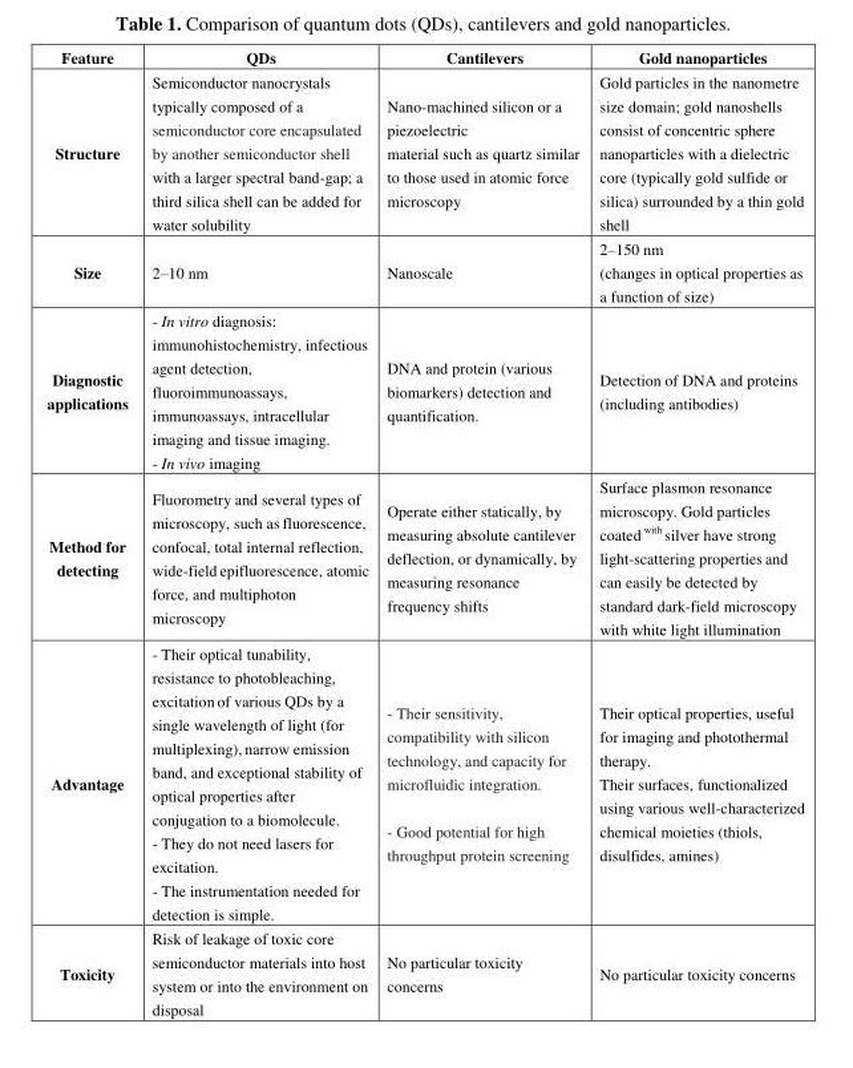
<table><thead><tr><td>Feature</td><td>QDs</td><td>Cantilevers</td><td>Gold nanoparticles</td></tr></thead><tbody><tr><td>Structure</td><td>Semiconductor nanocrystals typically composed of a semiconductor core encapsulated by another semiconductor shell with a larger spectral band-gap; a third silica shell can be added for water solubility</td><td>Nano-machined silicon or a piezoelectric material such as quartz similar to those used in atomic force microscopy</td><td>Gold particles in the nanometre size domain; gold nanoshells consist of concentric sphere nanoparticles with a dielectric core (typically gold sulfide or silica) surrounded by a thin gold shell</td></tr><tr><td>Size</td><td>2–10 nm</td><td>Nanoscale</td><td>2–150 nm (changes in optical properties as a function of size)</td></tr><tr><td>Diagnostic applications</td><td>- In vitro diagnosis: immunohistochemistry, infectious agent detection, fluoroimmunoassays, immunoassays, intracellular imaging and tissue imaging. - In vivo imaging</td><td>DNA and protein (various biomarkers) detection and quantification.</td><td>Detection of DNA and proteins (including antibodies)</td></tr><tr><td>Method for detecting</td><td>Fluorometry and several types of microscopy, such as fluorescence, confocal, total internal reflection, wide-field epifluorescence, atomic force, and multiphoton microscopy</td><td>Operate either statically, by measuring absolute cantilever deflection, or dynamically, by measuring resonance frequency shifts</td><td>Surface plasmon resonance microscopy. Gold particles coated <sup>with</sup> silver have strong light-scattering properties and can easily be detected by standard dark-field microscopy with white light illumination</td></tr><tr><td>Advantage</td><td>- Their optical tunability, resistance to photobleaching, excitation of various QDs by a single wavelength of light (for multiplexing), narrow emission band, and exceptional stability of optical properties after conjugation to a biomolecule. - They do not need lasers for excitation. - The instrumentation needed for detection is simple.</td><td>- Their sensitivity, compatibility with silicon technology, and capacity for microfluidic integration. - Good potential for high throughput protein screening</td><td>Their optical properties, useful for imaging and photothermal therapy. Their surfaces, functionalized using various well-characterized chemical moieties (thiols, disulfides, amines)</td></tr><tr><td>Toxicity</td><td>Risk of leakage of toxic core semiconductor materials into host system or into the environment on disposal</td><td>No particular toxicity concerns</td><td>No particular toxicity concerns</td></tr></tbody></table>